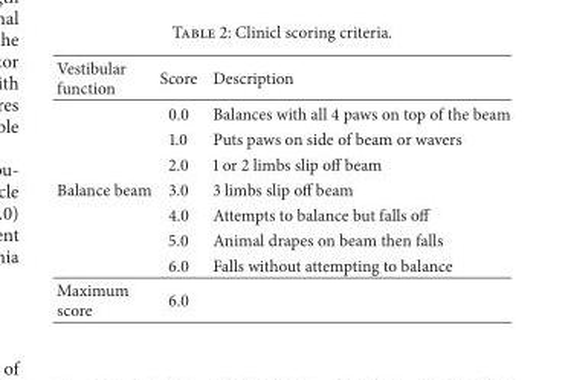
<table><thead><tr><td>Vestibular function</td><td>Score</td><td>Description</td></tr></thead><tbody><tr><td rowspan="7">Balance beam</td><td>0.0</td><td>Balances with all 4 paws on top of the beam</td></tr><tr><td>1.0</td><td>Puts paws on side of beam or wavers</td></tr><tr><td>2.0</td><td>1 or 2 limbs slip off beam</td></tr><tr><td>3.0</td><td>3 limbs slip off beam</td></tr><tr><td>4.0</td><td>Attempts to balance but falls off</td></tr><tr><td>5.0</td><td>Animal drapes on beam then falls</td></tr><tr><td>6.0</td><td>Falls without attempting to balance</td></tr><tr><td>Maximum score</td><td>6.0</td><td></td></tr></tbody></table>